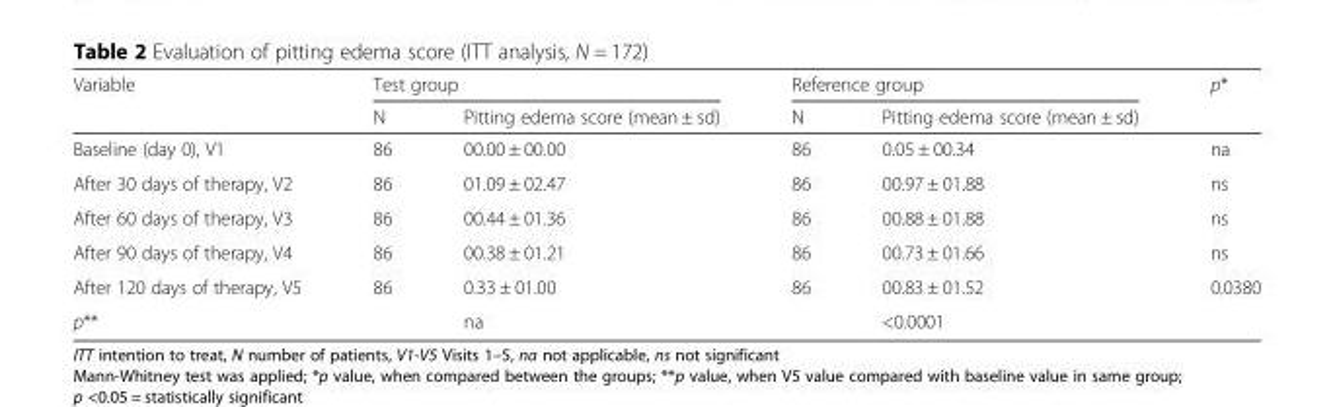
<table><thead><tr><td rowspan="2">Variable</td><td colspan="2">Test group</td><td colspan="2">Reference group</td><td rowspan="2">p*</td></tr><tr><td>N</td><td>Pitting edema score (mean ± sd)</td><td>N</td><td>Pitting edema score (mean ± sd)</td></tr></thead><tbody><tr><td>Baseline (day 0), V1</td><td>86</td><td>00.00 ± 00.00</td><td>86</td><td>0.05 ± 00.34</td><td>na</td></tr><tr><td>After 30 days of therapy, V2</td><td>86</td><td>01.09 ± 02.47</td><td>86</td><td>00.97 ± 01.88</td><td>ns</td></tr><tr><td>After 60 days of therapy, V3</td><td>86</td><td>00.44 ± 01.36</td><td>86</td><td>00.88 ± 01.88</td><td>ns</td></tr><tr><td>After 90 days of therapy, V4</td><td>86</td><td>00.38 ± 01.21</td><td>86</td><td>00.73 ± 01.66</td><td>ns</td></tr><tr><td>After 120 days of therapy, V5</td><td>86</td><td>0.33 ± 01.00</td><td>86</td><td>00.83 ± 01.52</td><td>0.0380</td></tr><tr><td>p**</td><td></td><td>na</td><td></td><td>&lt;0.0001</td><td></td></tr></tbody></table>